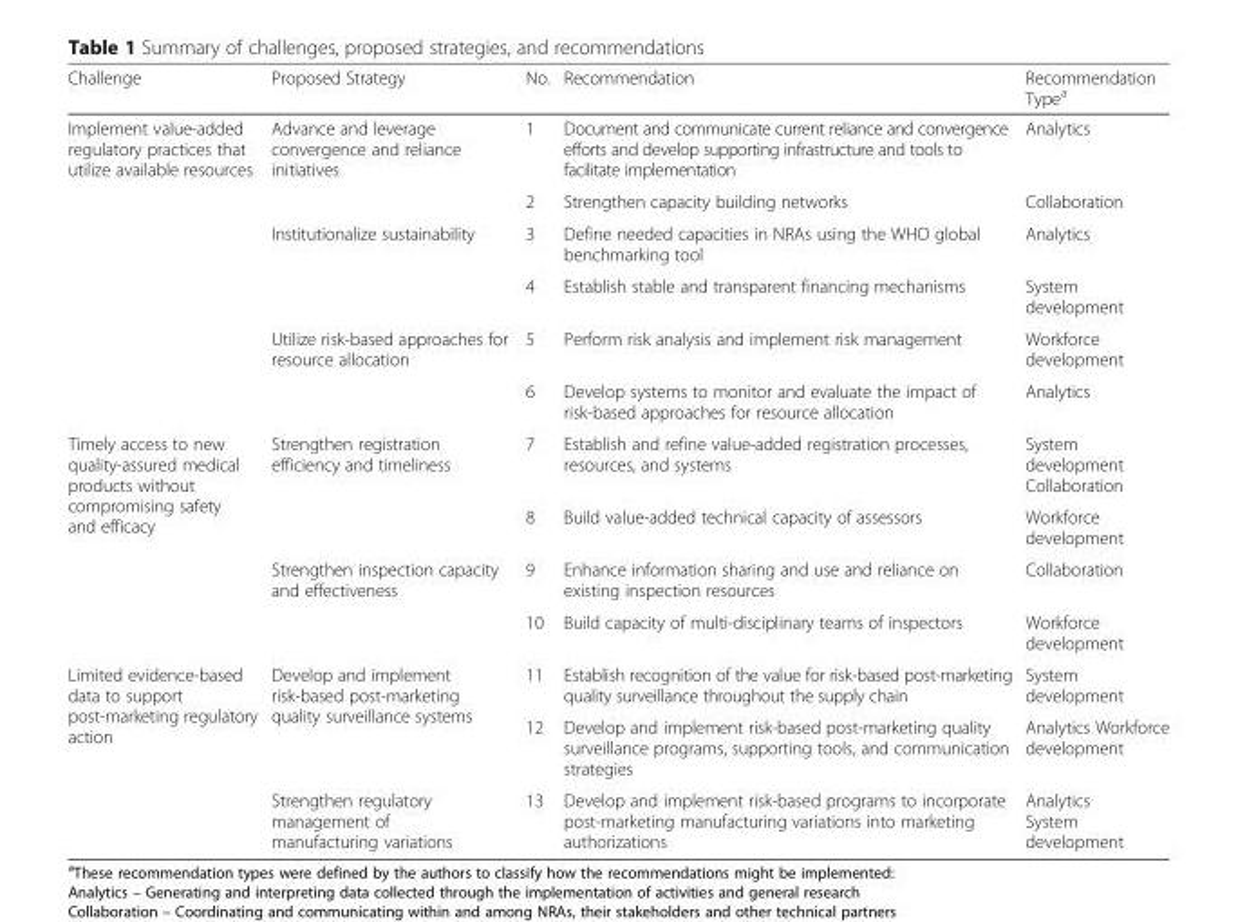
<table><thead><tr><td>Challenge</td><td>Proposed Strategy</td><td>No.</td><td>Recommendation</td><td>Recommendation Type<sup>a</sup></td></tr></thead><tbody><tr><td rowspan="6">Implement value-added regulatory practices that utilize available resources</td><td rowspan="2">Advance and leverage convergence and reliance initiatives</td><td>1</td><td>Document and communicate current reliance and convergence efforts and develop supporting infrastructure and tools to facilitate implementation</td><td>Analytics</td></tr><tr><td>2</td><td>Strengthen capacity building networks</td><td>Collaboration</td></tr><tr><td rowspan="2">Institutionalize sustainability</td><td>3</td><td>Define needed capacities in NRAs using the WHO global benchmarking tool</td><td>Analytics</td></tr><tr><td>4</td><td>Establish stable and transparent financing mechanisms</td><td>System development</td></tr><tr><td rowspan="2">Utilize risk-based approaches for resource allocation</td><td>5</td><td>Perform risk analysis and implement risk management</td><td>Workforce development</td></tr><tr><td>6</td><td>Develop systems to monitor and evaluate the impact of risk-based approaches for resource allocation</td><td>Analytics</td></tr><tr><td rowspan="4">Timely access to new quality-assured medical products without compromising safety and efficacy</td><td rowspan="2">Strengthen registration efficiency and timeliness</td><td>7</td><td>Establish and refine value-added registration processes, resources, and systems</td><td>System development Collaboration</td></tr><tr><td>8</td><td>Build value-added technical capacity of assessors</td><td>Workforce development</td></tr><tr><td rowspan="2">Strengthen inspection capacity and effectiveness</td><td>9</td><td>Enhance information sharing and use and reliance on existing inspection resources</td><td>Collaboration</td></tr><tr><td>10</td><td>Build capacity of multi-disciplinary teams of inspectors</td><td>Workforce development</td></tr><tr><td rowspan="3">Limited evidence-based data to support post-marketing regulatory action</td><td rowspan="2">Develop and implement risk-based post-marketing quality surveillance systems</td><td>11</td><td>Establish recognition of the value for risk-based post-marketing quality surveillance throughout the supply chain</td><td>System development</td></tr><tr><td>12</td><td>Develop and implement risk-based post-marketing quality surveillance programs, supporting tools, and communication strategies</td><td>Analytics Workforce development</td></tr><tr><td>Strengthen regulatory management of manufacturing variations</td><td>13</td><td>Develop and implement risk-based programs to incorporate post-marketing manufacturing variations into marketing authorizations</td><td>Analytics System development</td></tr></tbody></table>